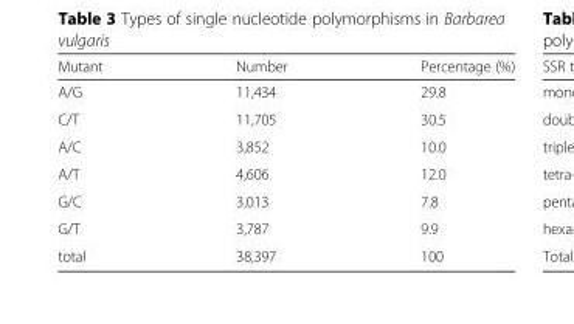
<table><thead><tr><td>Mutant</td><td>Number</td><td>Percentage (%)</td></tr></thead><tbody><tr><td>A/G</td><td>11,434</td><td>29.8</td></tr><tr><td>C/T</td><td>11,705</td><td>30.5</td></tr><tr><td>A/C</td><td>3,852</td><td>10.0</td></tr><tr><td>A/T</td><td>4,606</td><td>12.0</td></tr><tr><td>G/C</td><td>3,013</td><td>7.8</td></tr><tr><td>G/T</td><td>3,787</td><td>9.9</td></tr><tr><td>total</td><td>38,397</td><td>100</td></tr></tbody></table>